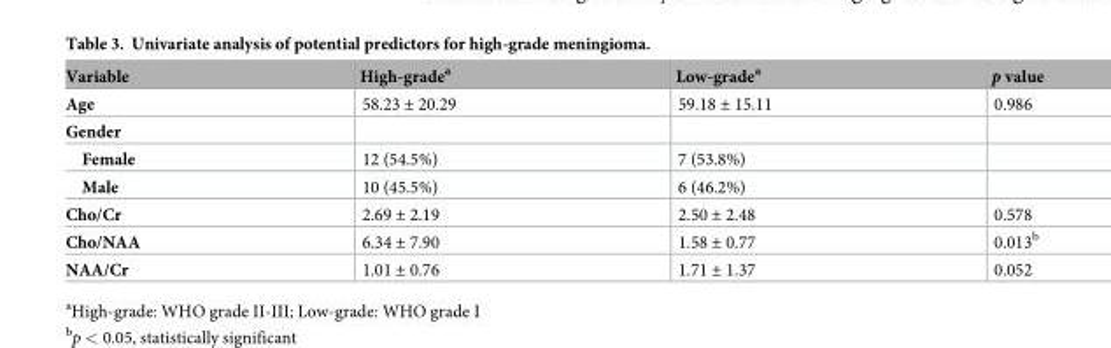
<table><thead><tr><td>Variable</td><td>High-grade<sup>a</sup></td><td>Low-grade<sup>a</sup></td><td>p value</td></tr></thead><tbody><tr><td>Age</td><td>58.23 ± 20.29</td><td>59.18 ± 15.11</td><td>0.986</td></tr><tr><td colspan="4">Gender</td></tr><tr><td>Female</td><td>12 (54.5%)</td><td>7 (53.8%)</td><td></td></tr><tr><td>Male</td><td>10 (45.5%)</td><td>6 (46.2%)</td><td></td></tr><tr><td>Cho/Cr</td><td>2.69 ± 2.19</td><td>2.50 ± 2.48</td><td>0.578</td></tr><tr><td>Cho/NAA</td><td>6.34 ± 7.90</td><td>1.58 ± 0.77</td><td>0.013<sup>b</sup></td></tr><tr><td>NAA/Cr</td><td>1.01 ± 0.76</td><td>1.71 ± 1.37</td><td>0.052</td></tr></tbody></table>